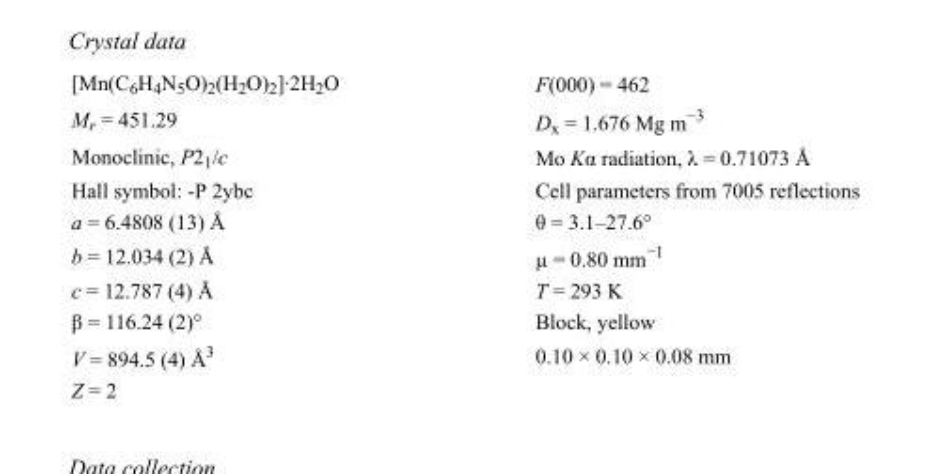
<table><tbody><tr><td>[Mn(C<sub>6</sub>H<sub>4</sub>N<sub>5</sub>O)<sub>2</sub>(H<sub>2</sub>O)<sub>2</sub>]·2H<sub>2</sub>O</td><td>F(000) = 462</td></tr><tr><td>M<sub>r</sub> = 451.29</td><td>D<sub>x</sub> = 1.676 Mg m<sup>−3</sup></td></tr><tr><td>Monoclinic, P2<sub>1</sub>/c</td><td>Mo Kα radiation, λ = 0.71073 Å</td></tr><tr><td>Hall symbol: -P 2ybc</td><td>Cell parameters from 7005 reflections</td></tr><tr><td>a = 6.4808 (13) Å</td><td>θ = 3.1–27.6°</td></tr><tr><td>b = 12.034 (2) Å</td><td>µ = 0.80 mm<sup>−1</sup></td></tr><tr><td>c = 12.787 (4) Å</td><td>T = 293 K</td></tr><tr><td>β = 116.24 (2)°</td><td>Block, yellow</td></tr><tr><td>V = 894.5 (4) Å<sup>3</sup></td><td>0.10 × 0.10 × 0.08 mm</td></tr><tr><td>Z = 2</td><td></td></tr></tbody></table>